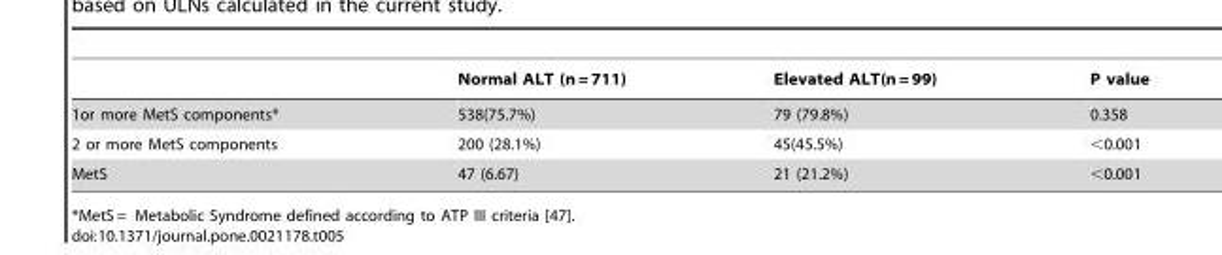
<table><thead><tr><td></td><td>Normal ALT (n = 711)</td><td>Elevated ALT(n = 99)</td><td>P value</td></tr></thead><tbody><tr><td>1or more MetS components*</td><td>538(75.7%)</td><td>79 (79.8%)</td><td>0.358</td></tr><tr><td>2 or more MetS components</td><td>200 (28.1%)</td><td>45(45.5%)</td><td>&lt;0.001</td></tr><tr><td>MetS</td><td>47 (6.67)</td><td>21 (21.2%)</td><td>&lt;0.001</td></tr></tbody></table>